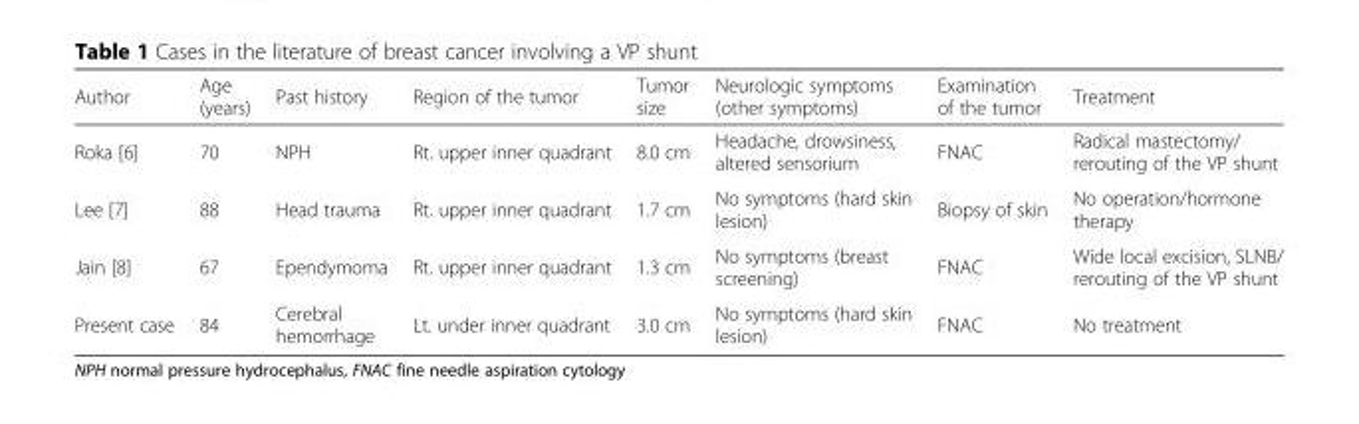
<table><thead><tr><td>Author</td><td>Age (years)</td><td>Past history</td><td>Region of the tumor</td><td>Tumor size</td><td>Neurologic symptoms (other symptoms)</td><td>Examination of the tumor</td><td>Treatment</td></tr></thead><tbody><tr><td>Roka [6]</td><td>70</td><td>NPH</td><td>Rt. upper inner quadrant</td><td>8.0 cm</td><td>Headache, drowsiness, altered sensorium</td><td>FNAC</td><td>Radical mastectomy/ rerouting of the VP shunt</td></tr><tr><td>Lee [7]</td><td>88</td><td>Head trauma</td><td>Rt. upper inner quadrant</td><td>1.7 cm</td><td>No symptoms (hard skin lesion)</td><td>Biopsy of skin</td><td>No operation/hormone therapy</td></tr><tr><td>Jain [8]</td><td>67</td><td>Ependymoma</td><td>Rt. upper inner quadrant</td><td>1.3 cm</td><td>No symptoms (breast screening)</td><td>FNAC</td><td>Wide local excision, SLNB/ rerouting of the VP shunt</td></tr><tr><td>Present case</td><td>84</td><td>Cerebral hemorrhage</td><td>Lt. under inner quadrant</td><td>3.0 cm</td><td>No symptoms (hard skin lesion)</td><td>FNAC</td><td>No treatment</td></tr></tbody></table>